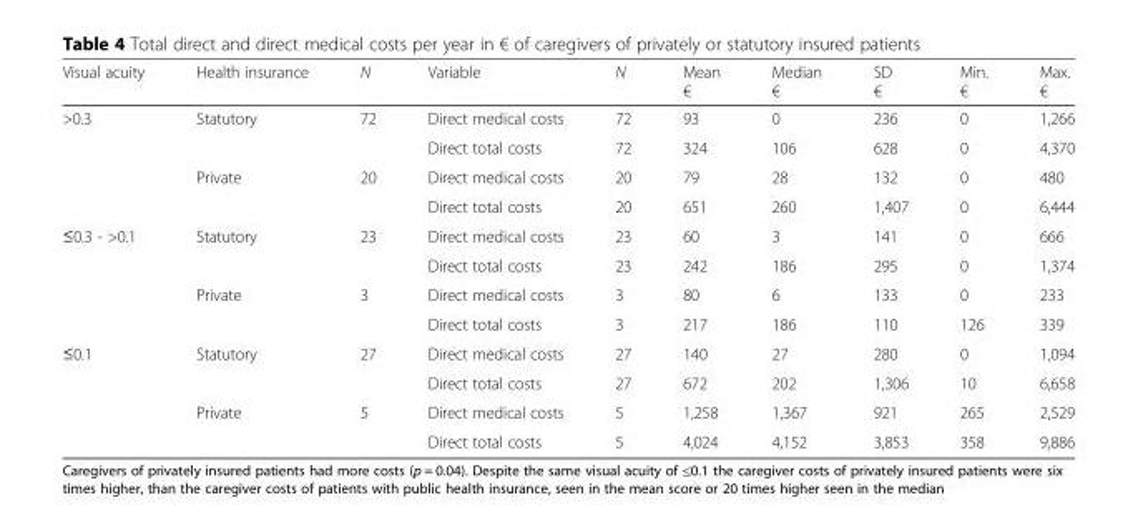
<table><thead><tr><td>Visual acuity</td><td>Health insurance</td><td>N</td><td>Variable</td><td>N</td><td>Mean €</td><td>Median €</td><td>SD €</td><td>Min. €</td><td>Max. €</td></tr></thead><tbody><tr><td rowspan="4">&gt;0.3</td><td rowspan="2">Statutory</td><td rowspan="2">72</td><td>Direct medical costs</td><td>72</td><td>93</td><td>0</td><td>236</td><td>0</td><td>1,266</td></tr><tr><td>Direct total costs</td><td>72</td><td>324</td><td>106</td><td>628</td><td>0</td><td>4,370</td></tr><tr><td rowspan="2">Private</td><td rowspan="2">20</td><td>Direct medical costs</td><td>20</td><td>79</td><td>28</td><td>132</td><td>0</td><td>480</td></tr><tr><td>Direct total costs</td><td>20</td><td>651</td><td>260</td><td>1,407</td><td>0</td><td>6,444</td></tr><tr><td rowspan="4">≤0.3 - &gt;0.1</td><td rowspan="2">Statutory</td><td rowspan="2">23</td><td>Direct medical costs</td><td>23</td><td>60</td><td>3</td><td>141</td><td>0</td><td>666</td></tr><tr><td>Direct total costs</td><td>23</td><td>242</td><td>186</td><td>295</td><td>0</td><td>1,374</td></tr><tr><td rowspan="2">Private</td><td rowspan="2">3</td><td>Direct medical costs</td><td>3</td><td>80</td><td>6</td><td>133</td><td>0</td><td>233</td></tr><tr><td>Direct total costs</td><td>3</td><td>217</td><td>186</td><td>110</td><td>126</td><td>339</td></tr><tr><td rowspan="4">≤0.1</td><td rowspan="2">Statutory</td><td rowspan="2">27</td><td>Direct medical costs</td><td>27</td><td>140</td><td>27</td><td>280</td><td>0</td><td>1,094</td></tr><tr><td>Direct total costs</td><td>27</td><td>672</td><td>202</td><td>1,306</td><td>10</td><td>6,658</td></tr><tr><td rowspan="2">Private</td><td rowspan="2">5</td><td>Direct medical costs</td><td>5</td><td>1,258</td><td>1,367</td><td>921</td><td>265</td><td>2,529</td></tr><tr><td>Direct total costs</td><td>5</td><td>4,024</td><td>4,152</td><td>3,853</td><td>358</td><td>9,886</td></tr></tbody></table>